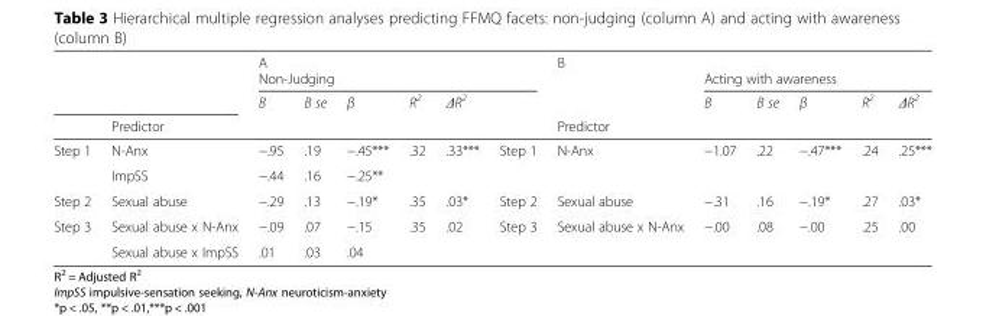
<table><thead><tr><td rowspan="4"></td><td rowspan="4">Predictor</td><td rowspan="2" colspan="6">A Non-Judging</td><td colspan="6">B</td></tr><tr><td rowspan="3">Predictor</td><td colspan="5">Acting with awareness</td></tr><tr><td rowspan="2">B</td><td rowspan="2">B se</td><td rowspan="2">β</td><td rowspan="2">R<sup>2</sup></td><td rowspan="2">ΔR<sup>2</sup></td><td rowspan="2"></td><td rowspan="2">B</td><td rowspan="2">B se</td><td rowspan="2">β</td><td rowspan="2">R<sup>2</sup></td><td rowspan="2">ΔR<sup>2</sup></td></tr><tr></tr></thead><tbody><tr><td rowspan="2">Step 1</td><td>N-Anx</td><td>−.95</td><td>.19</td><td>−.45***</td><td>.32</td><td>.33***</td><td>Step 1</td><td>N-Anx</td><td>−1.07</td><td>.22</td><td>−.47***</td><td>.24</td><td>.25***</td></tr><tr><td>ImpSS</td><td>−.44</td><td>.16</td><td>−.25**</td><td></td><td></td><td></td><td></td><td></td><td></td><td></td><td></td><td></td></tr><tr><td>Step 2</td><td>Sexual abuse</td><td>−.29</td><td>.13</td><td>−.19*</td><td>.35</td><td>.03*</td><td>Step 2</td><td>Sexual abuse</td><td>−.31</td><td>.16</td><td>−.19*</td><td>.27</td><td>.03*</td></tr><tr><td rowspan="2">Step 3</td><td>Sexual abuse x N-Anx</td><td>−.09</td><td>.07</td><td>−.15</td><td>.35</td><td>.02</td><td>Step 3</td><td>Sexual abuse x N-Anx</td><td>−.00</td><td>.08</td><td>−.00</td><td>.25</td><td>.00</td></tr><tr><td>Sexual abuse x ImpSS</td><td>.01</td><td>.03</td><td>.04</td><td></td><td></td><td></td><td></td><td></td><td></td><td></td><td></td><td></td></tr></tbody></table>